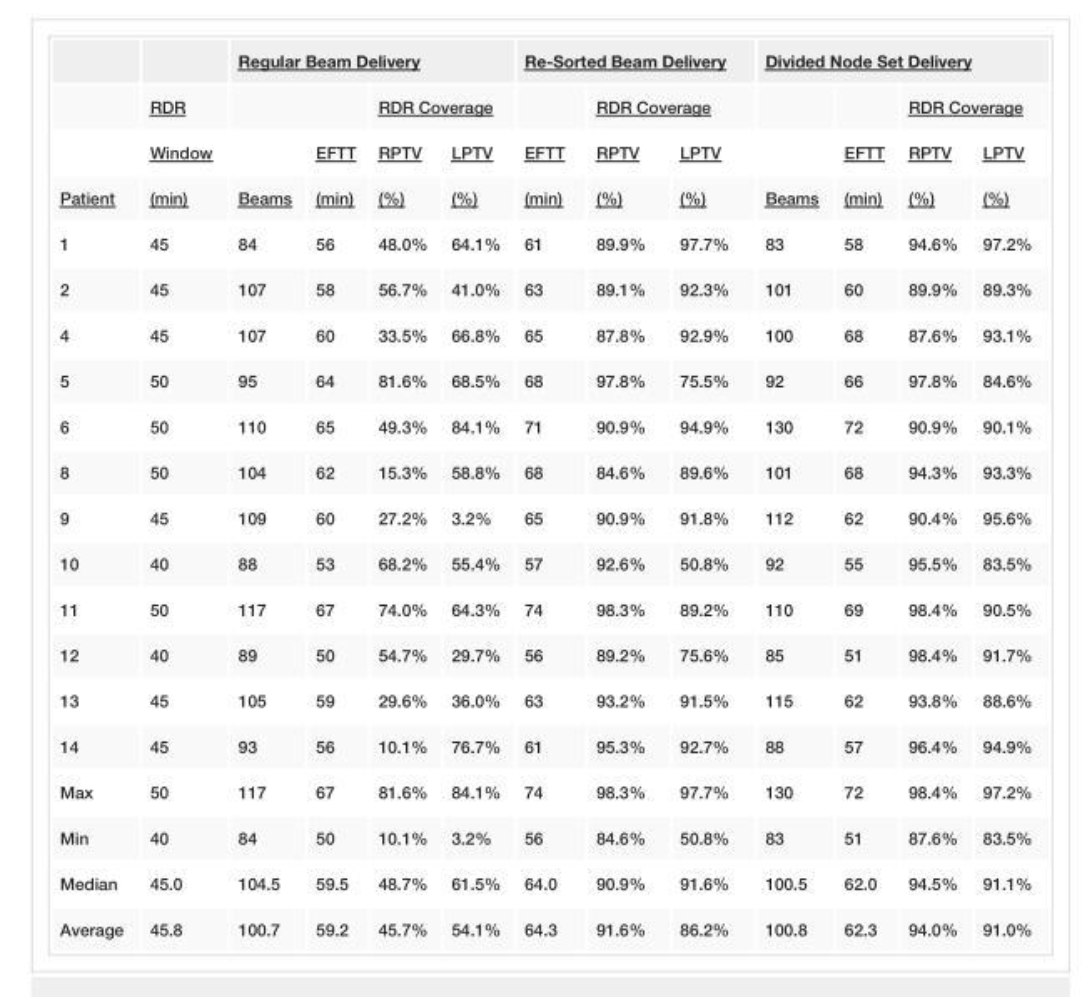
<table><thead><tr><td rowspan="3"></td><td rowspan="3">RDR Window</td><td colspan="4">Regular Beam Delivery</td><td colspan="3">Re-Sorted Beam Delivery</td><td colspan="4">Divided Node Set Delivery</td></tr><tr><td colspan="2"></td><td colspan="2">RDR Coverage</td><td rowspan="2">EFTT</td><td colspan="2">RDR Coverage</td><td rowspan="2"></td><td rowspan="2">EFTT</td><td colspan="2">RDR Coverage</td></tr><tr><td></td><td>EFTT</td><td>RPTV</td><td>LPTV</td><td>RPTV</td><td>LPTV</td><td>RPTV</td><td>LPTV</td></tr></thead><tbody><tr><td>Patient</td><td>(min)</td><td>Beams</td><td>(min)</td><td>(%)</td><td>(%)</td><td>(min)</td><td>(%)</td><td>(%)</td><td>Beams</td><td>(min)</td><td>(%)</td><td>(%)</td></tr><tr><td>1</td><td>45</td><td>84</td><td>56</td><td>48.0%</td><td>64.1%</td><td>61</td><td>89.9%</td><td>97.7%</td><td>83</td><td>58</td><td>94.6%</td><td>97.2%</td></tr><tr><td>2</td><td>45</td><td>107</td><td>58</td><td>56.7%</td><td>41.0%</td><td>63</td><td>89.1%</td><td>92.3%</td><td>101</td><td>60</td><td>89.9%</td><td>89.3%</td></tr><tr><td>4</td><td>45</td><td>107</td><td>60</td><td>33.5%</td><td>66.8%</td><td>65</td><td>87.8%</td><td>92.9%</td><td>100</td><td>68</td><td>87.6%</td><td>93.1%</td></tr><tr><td>5</td><td>50</td><td>95</td><td>64</td><td>81.6%</td><td>68.5%</td><td>68</td><td>97.8%</td><td>75.5%</td><td>92</td><td>66</td><td>97.8%</td><td>84.6%</td></tr><tr><td>6</td><td>50</td><td>110</td><td>65</td><td>49.3%</td><td>84.1%</td><td>71</td><td>90.9%</td><td>94.9%</td><td>130</td><td>72</td><td>90.9%</td><td>90.1%</td></tr><tr><td>8</td><td>50</td><td>104</td><td>62</td><td>15.3%</td><td>58.8%</td><td>68</td><td>84.6%</td><td>89.6%</td><td>101</td><td>68</td><td>94.3%</td><td>93.3%</td></tr><tr><td>9</td><td>45</td><td>109</td><td>60</td><td>27.2%</td><td>3.2%</td><td>65</td><td>90.9%</td><td>91.8%</td><td>112</td><td>62</td><td>90.4%</td><td>95.6%</td></tr><tr><td>10</td><td>40</td><td>88</td><td>53</td><td>68.2%</td><td>55.4%</td><td>57</td><td>92.6%</td><td>50.8%</td><td>92</td><td>55</td><td>95.5%</td><td>83.5%</td></tr><tr><td>11</td><td>50</td><td>117</td><td>67</td><td>74.0%</td><td>64.3%</td><td>74</td><td>98.3%</td><td>89.2%</td><td>110</td><td>69</td><td>98.4%</td><td>90.5%</td></tr><tr><td>12</td><td>40</td><td>89</td><td>50</td><td>54.7%</td><td>29.7%</td><td>56</td><td>89.2%</td><td>75.6%</td><td>85</td><td>51</td><td>98.4%</td><td>91.7%</td></tr><tr><td>13</td><td>45</td><td>105</td><td>59</td><td>29.6%</td><td>36.0%</td><td>63</td><td>93.2%</td><td>91.5%</td><td>115</td><td>62</td><td>93.8%</td><td>88.6%</td></tr><tr><td>14</td><td>45</td><td>93</td><td>56</td><td>10.1%</td><td>76.7%</td><td>61</td><td>95.3%</td><td>92.7%</td><td>88</td><td>57</td><td>96.4%</td><td>94.9%</td></tr><tr><td>Max</td><td>50</td><td>117</td><td>67</td><td>81.6%</td><td>84.1%</td><td>74</td><td>98.3%</td><td>97.7%</td><td>130</td><td>72</td><td>98.4%</td><td>97.2%</td></tr><tr><td>Min</td><td>40</td><td>84</td><td>50</td><td>10.1%</td><td>3.2%</td><td>56</td><td>84.6%</td><td>50.8%</td><td>83</td><td>51</td><td>87.6%</td><td>83.5%</td></tr><tr><td>Median</td><td>45.0</td><td>104.5</td><td>59.5</td><td>48.7%</td><td>61.5%</td><td>64.0</td><td>90.9%</td><td>91.6%</td><td>100.5</td><td>62.0</td><td>94.5%</td><td>91.1%</td></tr><tr><td>Average</td><td>45.8</td><td>100.7</td><td>59.2</td><td>45.7%</td><td>54.1%</td><td>64.3</td><td>91.6%</td><td>86.2%</td><td>100.8</td><td>62.3</td><td>94.0%</td><td>91.0%</td></tr></tbody></table>